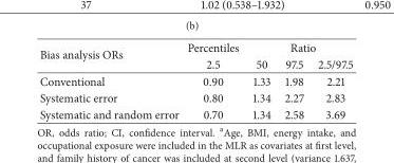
<table><thead><tr><td rowspan="2">Bias analysis ORs</td><td rowspan="2">Percentiles 2.5</td><td colspan="3">Ratio</td></tr><tr><td>50</td><td>97.5</td><td>2.5/97.5</td></tr></thead><tbody><tr><td>Conventional</td><td>0.90</td><td>1.33</td><td>1.98</td><td>2.21</td></tr><tr><td>Systematic error</td><td>0.80</td><td>1.34</td><td>2.27</td><td>2.83</td></tr><tr><td>Systematic and random error</td><td>0.70</td><td>1.34</td><td>2.58</td><td>3.69</td></tr></tbody></table>